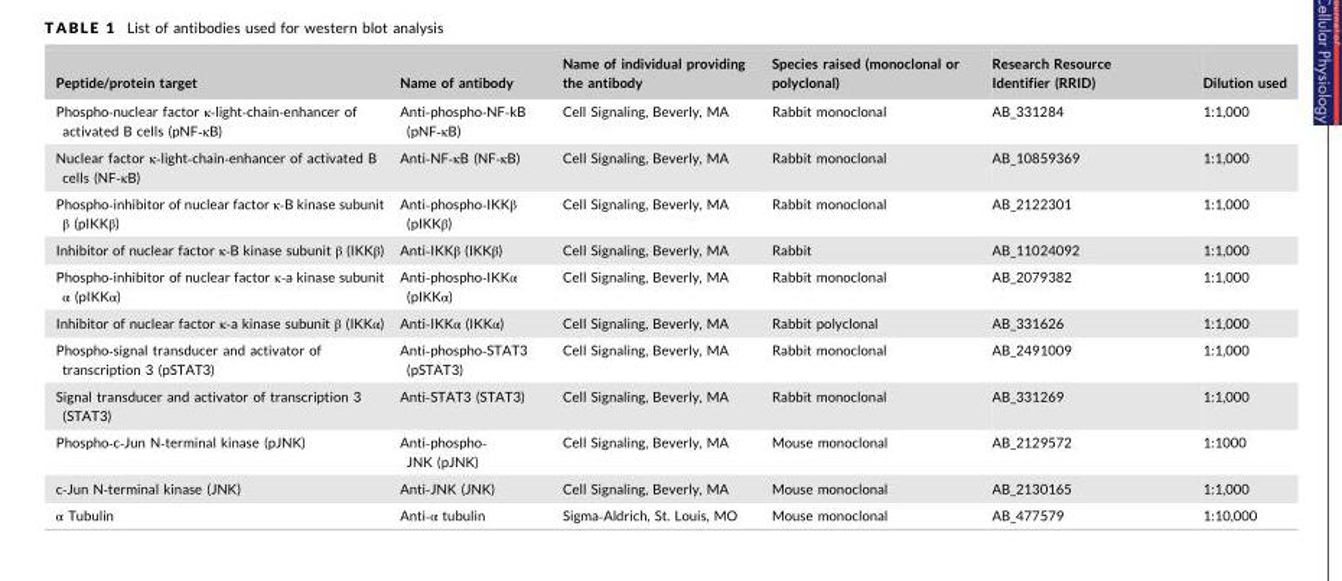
<table><thead><tr><td>Peptide/protein target</td><td>Name of antibody</td><td>Name of individual providing the antibody</td><td>Species raised (monoclonal or polyclonal)</td><td>Research Resource Identifier (RRID)</td><td>Dilution used</td></tr></thead><tbody><tr><td>Phospho‐nuclear factor κ‐light‐chain‐enhancer of activated B cells (pNF‐κB)</td><td>Anti‐phospho‐NF‐kB (pNF‐κB)</td><td>Cell Signaling, Beverly, MA</td><td>Rabbit monoclonal</td><td>AB_331284</td><td>1:1,000</td></tr><tr><td>Nuclear factor κ‐light‐chain‐enhancer of activated B cells (NF‐κB)</td><td>Anti‐NF‐κB (NF‐κB)</td><td>Cell Signaling, Beverly, MA</td><td>Rabbit monoclonal</td><td>AB_10859369</td><td>1:1,000</td></tr><tr><td>Phospho‐inhibitor of nuclear factor κ‐B kinase subunit β (pIKKβ)</td><td>Anti‐phospho‐IKKβ (pIKKβ)</td><td>Cell Signaling, Beverly, MA</td><td>Rabbit monoclonal</td><td>AB_2122301</td><td>1:1,000</td></tr><tr><td>Inhibitor of nuclear factor κ‐B kinase subunit β (IKKβ)</td><td>Anti‐IKKβ (IKKβ)</td><td>Cell Signaling, Beverly, MA</td><td>Rabbit</td><td>AB_11024092</td><td>1:1,000</td></tr><tr><td>Phospho‐inhibitor of nuclear factor κ‐a kinase subunit α (pIKKα)</td><td>Anti‐phospho‐IKKα (pIKKα)</td><td>Cell Signaling, Beverly, MA</td><td>Rabbit monoclonal</td><td>AB_2079382</td><td>1:1,000</td></tr><tr><td>Inhibitor of nuclear factor κ‐a kinase subunit β (IKKα)</td><td>Anti‐IKKα (IKKα)</td><td>Cell Signaling, Beverly, MA</td><td>Rabbit polyclonal</td><td>AB_331626</td><td>1:1,000</td></tr><tr><td>Phospho‐signal transducer and activator of transcription 3 (pSTAT3)</td><td>Anti‐phospho‐STAT3 (pSTAT3)</td><td>Cell Signaling, Beverly, MA</td><td>Rabbit monoclonal</td><td>AB_2491009</td><td>1:1,000</td></tr><tr><td>Signal transducer and activator of transcription 3 (STAT3)</td><td>Anti‐STAT3 (STAT3)</td><td>Cell Signaling, Beverly, MA</td><td>Rabbit monoclonal</td><td>AB_331269</td><td>1:1,000</td></tr><tr><td>Phospho‐c‐Jun N‐terminal kinase (pJNK)</td><td>Anti‐phospho‐ JNK (pJNK)</td><td>Cell Signaling, Beverly, MA</td><td>Mouse monoclonal</td><td>AB_2129572</td><td>1:1000</td></tr><tr><td>c‐Jun N‐terminal kinase (JNK)</td><td>Anti‐JNK (JNK)</td><td>Cell Signaling, Beverly, MA</td><td>Mouse monoclonal</td><td>AB_2130165</td><td>1:1,000</td></tr><tr><td>α Tubulin</td><td>Anti‐α tubulin</td><td>Sigma‐Aldrich, St. Louis, MO</td><td>Mouse monoclonal</td><td>AB_477579</td><td>1:10,000</td></tr></tbody></table>